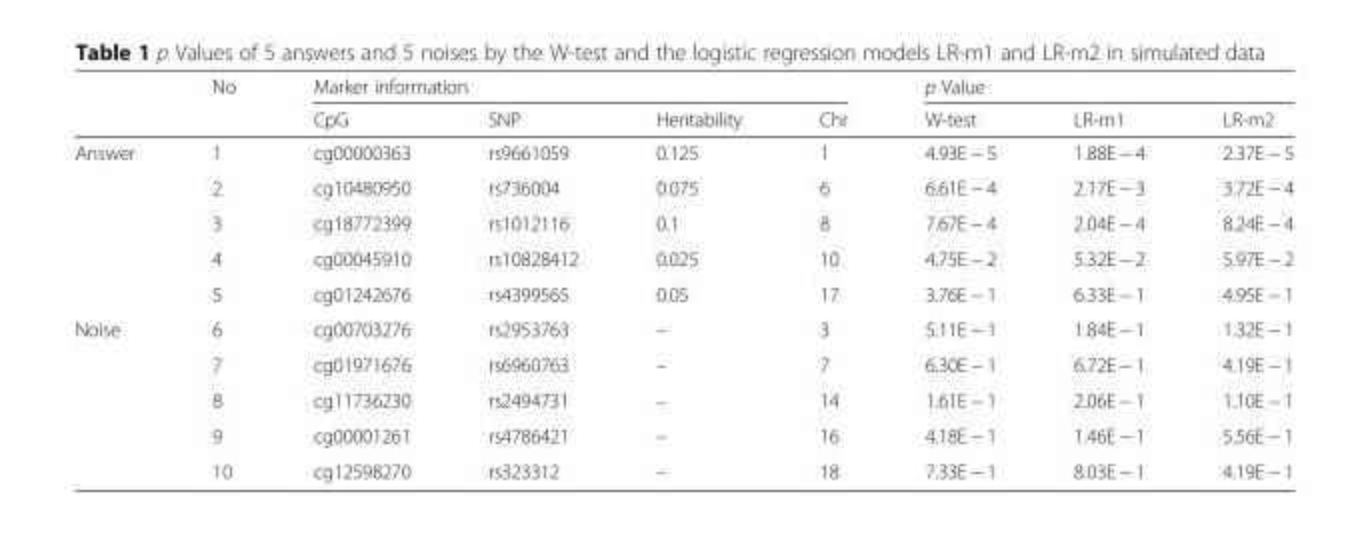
<table><thead><tr><td rowspan="2"></td><td rowspan="2">No</td><td colspan="4">Marker information</td><td colspan="3">p Value</td></tr><tr><td>CpG</td><td>SNP</td><td>Heritability</td><td>Chr</td><td>W-test</td><td>LR-m1</td><td>LR-m2</td></tr></thead><tbody><tr><td rowspan="5">Answer</td><td>1</td><td>cg00000363</td><td>rs9661059</td><td>0.125</td><td>1</td><td>4.93E − 5</td><td>1.88E − 4</td><td>2.37E − 5</td></tr><tr><td>2</td><td>cg10480950</td><td>rs736004</td><td>0.075</td><td>6</td><td>6.61E − 4</td><td>2.17E − 3</td><td>3.72E − 4</td></tr><tr><td>3</td><td>cg18772399</td><td>rs1012116</td><td>0.1</td><td>8</td><td>7.67E − 4</td><td>2.04E − 4</td><td>8.24E − 4</td></tr><tr><td>4</td><td>cg00045910</td><td>rs10828412</td><td>0.025</td><td>10</td><td>4.75E − 2</td><td>5.32E − 2</td><td>5.97E − 2</td></tr><tr><td>5</td><td>cg01242676</td><td>rs4399565</td><td>0.05</td><td>17</td><td>3.76E − 1</td><td>6.33E − 1</td><td>4.95E − 1</td></tr><tr><td rowspan="5">Noise</td><td>6</td><td>cg00703276</td><td>rs2953763</td><td>–</td><td>3</td><td>5.11E − 1</td><td>1.84E − 1</td><td>1.32E − 1</td></tr><tr><td>7</td><td>cg01971676</td><td>rs6960763</td><td>–</td><td>7</td><td>6.30E − 1</td><td>6.72E − 1</td><td>4.19E − 1</td></tr><tr><td>8</td><td>cg11736230</td><td>rs2494731</td><td>–</td><td>14</td><td>1.61E − 1</td><td>2.06E − 1</td><td>1.10E − 1</td></tr><tr><td>9</td><td>cg00001261</td><td>rs4786421</td><td>–</td><td>16</td><td>4.18E − 1</td><td>1.46E − 1</td><td>5.56E − 1</td></tr><tr><td>10</td><td>cg12598270</td><td>rs323312</td><td>–</td><td>18</td><td>7.33E − 1</td><td>8.03E − 1</td><td>4.19E − 1</td></tr></tbody></table>